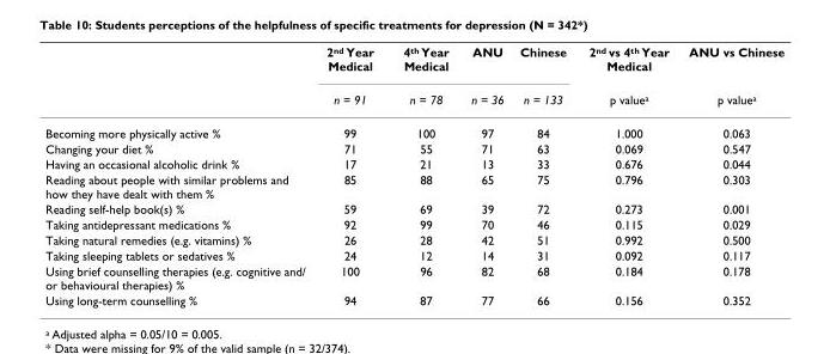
<table><thead><tr><td rowspan="2"></td><td rowspan="2">2<sup>nd</sup> Year Medical n = 91</td><td rowspan="2">4<sup>th</sup> Year Medical n = 78</td><td rowspan="2">ANU n = 36</td><td rowspan="2">Chinese n = 133</td><td rowspan="2">2<sup>nd</sup> vs 4<sup>th</sup> Year Medical p value<sup>a</sup></td><td rowspan="2">ANU vs Chinese p value<sup>a</sup></td></tr><tr></tr></thead><tbody><tr><td>Becoming more physically active %</td><td>99</td><td>100</td><td>97</td><td>84</td><td>1.000</td><td>0.063</td></tr><tr><td>Changing your diet %</td><td>71</td><td>55</td><td>71</td><td>63</td><td>0.069</td><td>0.547</td></tr><tr><td>Having an occasional alcoholic drink %</td><td>17</td><td>21</td><td>13</td><td>33</td><td>0.676</td><td>0.044</td></tr><tr><td>Reading about people with similar problems and how they have dealt with them %</td><td>85</td><td>88</td><td>65</td><td>75</td><td>0.796</td><td>0.303</td></tr><tr><td>Reading self-help book(s) %</td><td>59</td><td>69</td><td>39</td><td>72</td><td>0.273</td><td>0.001</td></tr><tr><td>Taking antidepressant medications %</td><td>92</td><td>99</td><td>70</td><td>46</td><td>0.115</td><td>0.029</td></tr><tr><td>Taking natural remedies (e.g. vitamins) %</td><td>26</td><td>28</td><td>42</td><td>51</td><td>0.992</td><td>0.500</td></tr><tr><td>Taking sleeping tablets or sedatives %</td><td>24</td><td>12</td><td>14</td><td>31</td><td>0.092</td><td>0.117</td></tr><tr><td>Using brief counselling therapies (e.g. cognitive and/ or behavioural therapies) %</td><td>100</td><td>96</td><td>82</td><td>68</td><td>0.184</td><td>0.178</td></tr><tr><td>Using long-term counselling %</td><td>94</td><td>87</td><td>77</td><td>66</td><td>0.156</td><td>0.352</td></tr></tbody></table>